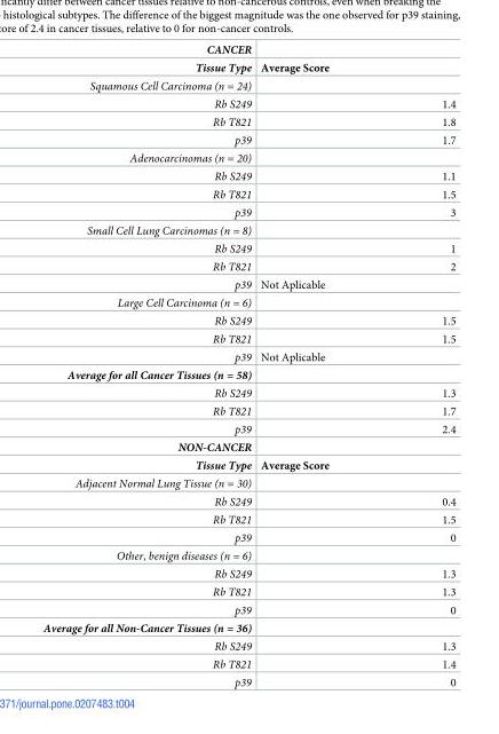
<table><tbody><tr><td colspan="2">CANCER</td></tr><tr><td>Tissue Type</td><td>Average Score</td></tr><tr><td colspan="2">Squamous Cell Carcinoma (n = 24)</td></tr><tr><td>Rb S249</td><td>1.4</td></tr><tr><td>Rb T821</td><td>1.8</td></tr><tr><td>p39</td><td>1.7</td></tr><tr><td colspan="2">Adenocarcinomas (n = 20)</td></tr><tr><td>Rb S249</td><td>1.1</td></tr><tr><td>Rb T821</td><td>1.5</td></tr><tr><td>p39</td><td>3</td></tr><tr><td colspan="2">Small Cell Lung Carcinomas (n = 8)</td></tr><tr><td>Rb S249</td><td>1</td></tr><tr><td>Rb T821</td><td>2</td></tr><tr><td>p39</td><td>Not Aplicable</td></tr><tr><td colspan="2">Large Cell Carcinoma (n = 6)</td></tr><tr><td>Rb S249</td><td>1.5</td></tr><tr><td>Rb T821</td><td>1.5</td></tr><tr><td>p39</td><td>Not Aplicable</td></tr><tr><td colspan="2">Average for all Cancer Tissues (n = 58)</td></tr><tr><td>Rb S249</td><td>1.3</td></tr><tr><td>Rb T821</td><td>1.7</td></tr><tr><td>p39</td><td>2.4</td></tr><tr><td colspan="2">NON-CANCER</td></tr><tr><td>Tissue Type</td><td>Average Score</td></tr><tr><td colspan="2">Adjacent Normal Lung Tissue (n = 30)</td></tr><tr><td>Rb S249</td><td>0.4</td></tr><tr><td>Rb T821</td><td>1.5</td></tr><tr><td>p39</td><td>0</td></tr><tr><td colspan="2">Other, benign diseases (n = 6)</td></tr><tr><td>Rb S249</td><td>1.3</td></tr><tr><td>Rb T821</td><td>1.3</td></tr><tr><td>p39</td><td>0</td></tr><tr><td colspan="2">Average for all Non-Cancer Tissues (n = 36)</td></tr><tr><td>Rb S249</td><td>1.3</td></tr><tr><td>Rb T821</td><td>1.4</td></tr><tr><td>p39</td><td>0</td></tr></tbody></table>